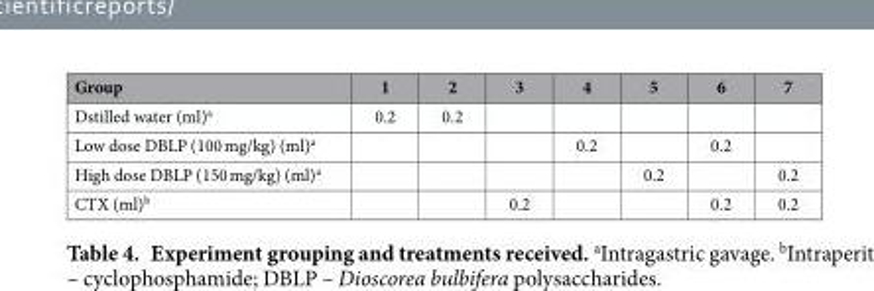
<table><thead><tr><td>Group</td><td>1</td><td>2</td><td>3</td><td>4</td><td>5</td><td>6</td><td>7</td></tr></thead><tbody><tr><td>Dstilled water (ml)<sup>a</sup></td><td>0.2</td><td>0.2</td><td></td><td></td><td></td><td></td><td></td></tr><tr><td>Low dose DBLP (100 mg/kg) (ml)<sup>a</sup></td><td></td><td></td><td></td><td>0.2</td><td></td><td>0.2</td><td></td></tr><tr><td>High dose DBLP (150 mg/kg) (ml)<sup>a</sup></td><td></td><td></td><td></td><td></td><td>0.2</td><td></td><td>0.2</td></tr><tr><td>CTX (ml)<sup>b</sup></td><td></td><td></td><td>0.2</td><td></td><td></td><td>0.2</td><td>0.2</td></tr></tbody></table>